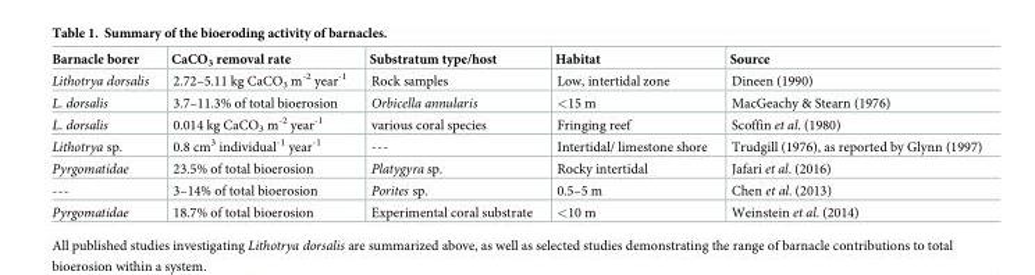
<table><thead><tr><td>Barnacle borer</td><td>CaCO<sub>3</sub> removal rate</td><td>Substratum type/host</td><td>Habitat</td><td>Source</td></tr></thead><tbody><tr><td>Lithotrya dorsalis</td><td>2.72–5.11 kg CaCO<sub>3</sub> m<sup>-2</sup> year<sup>-1</sup></td><td>Rock samples</td><td>Low, intertidal zone</td><td>Dineen (1990)</td></tr><tr><td>L. dorsalis</td><td>3.7–11.3% of total bioerosion</td><td>Orbicella annularis</td><td>&lt;15 m</td><td>MacGeachy &amp; Stearn (1976)</td></tr><tr><td>L. dorsalis</td><td>0.014 kg CaCO<sub>3</sub> m<sup>-2</sup> year<sup>-1</sup></td><td>various coral species</td><td>Fringing reef</td><td>Scoffin et al. (1980)</td></tr><tr><td>Lithotrya sp.</td><td>0.8 cm<sup>3</sup> individual<sup>-1</sup> year<sup>-1</sup></td><td>---</td><td>Intertidal/ limestone shore</td><td>Trudgill (1976), as reported by Glynn (1997)</td></tr><tr><td>Pyrgomatidae</td><td>23.5% of total bioerosion</td><td>Platygyra sp.</td><td>Rocky intertidal</td><td>Jafari et al. (2016)</td></tr><tr><td>---</td><td>3–14% of total bioerosion</td><td>Porites sp.</td><td>0.5–5 m</td><td>Chen et al. (2013)</td></tr><tr><td>Pyrgomatidae</td><td>18.7% of total bioerosion</td><td>Experimental coral substrate</td><td>&lt;10 m</td><td>Weinstein et al. (2014)</td></tr></tbody></table>